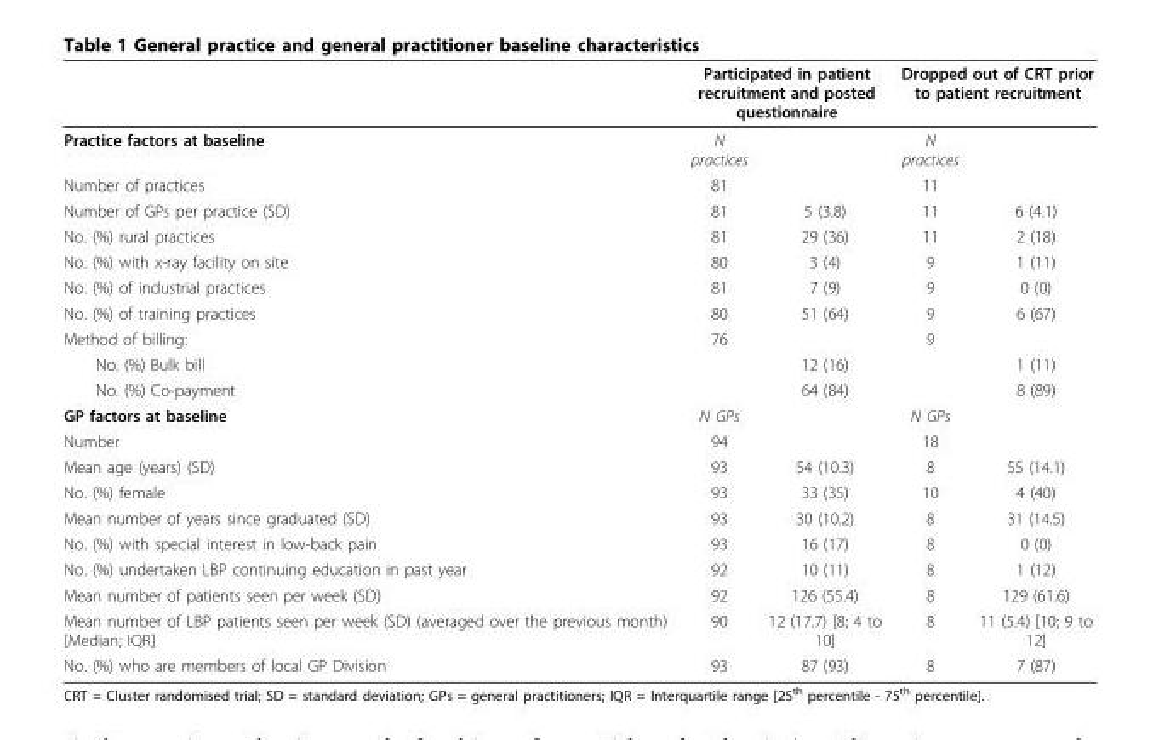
<table><thead><tr><td rowspan="2">Practice factors at baseline</td><td colspan="2">Participated in patient recruitment and posted questionnaire</td><td colspan="2">Dropped out of CRT prior to patient recruitment</td></tr><tr><td>N practices</td><td></td><td>N practices</td><td></td></tr></thead><tbody><tr><td>Number of practices</td><td>81</td><td></td><td>11</td><td></td></tr><tr><td>Number of GPs per practice (SD)</td><td>81</td><td>5 (3.8)</td><td>11</td><td>6 (4.1)</td></tr><tr><td>No. (%) rural practices</td><td>81</td><td>29 (36)</td><td>11</td><td>2 (18)</td></tr><tr><td>No. (%) with x-ray facility on site</td><td>80</td><td>3 (4)</td><td>9</td><td>1 (11)</td></tr><tr><td>No. (%) of industrial practices</td><td>81</td><td>7 (9)</td><td>9</td><td>0 (0)</td></tr><tr><td>No. (%) of training practices</td><td>80</td><td>51 (64)</td><td>9</td><td>6 (67)</td></tr><tr><td>Method of billing:</td><td>76</td><td></td><td>9</td><td></td></tr><tr><td>No. (%) Bulk bill</td><td></td><td>12 (16)</td><td></td><td>1 (11)</td></tr><tr><td>No. (%) Co-payment</td><td></td><td>64 (84)</td><td></td><td>8 (89)</td></tr><tr><td>GP factors at baseline</td><td>N GPs</td><td></td><td>N GPs</td><td></td></tr><tr><td>Number</td><td>94</td><td></td><td>18</td><td></td></tr><tr><td>Mean age (years) (SD)</td><td>93</td><td>54 (10.3)</td><td>8</td><td>55 (14.1)</td></tr><tr><td>No. (%) female</td><td>93</td><td>33 (35)</td><td>10</td><td>4 (40)</td></tr><tr><td>Mean number of years since graduated (SD)</td><td>93</td><td>30 (10.2)</td><td>8</td><td>31 (14.5)</td></tr><tr><td>No. (%) with special interest in low-back pain</td><td>93</td><td>16 (17)</td><td>8</td><td>0 (0)</td></tr><tr><td>No. (%) undertaken LBP continuing education in past year</td><td>92</td><td>10 (11)</td><td>8</td><td>1 (12)</td></tr><tr><td>Mean number of patients seen per week (SD)</td><td>92</td><td>126 (55.4)</td><td>8</td><td>129 (61.6)</td></tr><tr><td>Mean number of LBP patients seen per week (SD) (averaged over the previous month) [Median; IQR]</td><td>90</td><td>12 (17.7) [8; 4 to 10]</td><td>8</td><td>11 (5.4) [10; 9 to 12]</td></tr><tr><td>No. (%) who are members of local GP Division</td><td>93</td><td>87 (93)</td><td>8</td><td>7 (87)</td></tr></tbody></table>